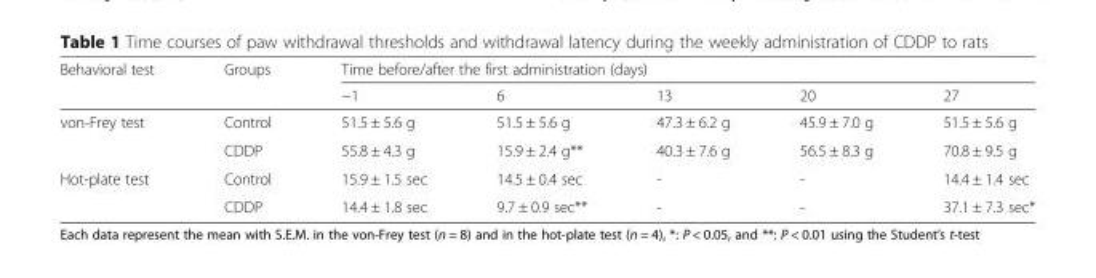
<table><thead><tr><td rowspan="2">Behavioral test</td><td rowspan="2">Groups</td><td colspan="5">Time before/after the first administration (days)</td></tr><tr><td>−1</td><td>6</td><td>13</td><td>20</td><td>27</td></tr></thead><tbody><tr><td rowspan="2">von-Frey test</td><td>Control</td><td>51.5 ± 5.6 g</td><td>51.5 ± 5.6 g</td><td>47.3 ± 6.2 g</td><td>45.9 ± 7.0 g</td><td>51.5 ± 5.6 g</td></tr><tr><td>CDDP</td><td>55.8 ± 4.3 g</td><td>15.9 ± 2.4 g**</td><td>40.3 ± 7.6 g</td><td>56.5 ± 8.3 g</td><td>70.8 ± 9.5 g</td></tr><tr><td rowspan="2">Hot-plate test</td><td>Control</td><td>15.9 ± 1.5 sec</td><td>14.5 ± 0.4 sec</td><td>-</td><td>-</td><td>14.4 ± 1.4 sec</td></tr><tr><td>CDDP</td><td>14.4 ± 1.8 sec</td><td>9.7 ± 0.9 sec**</td><td>-</td><td>-</td><td>37.1 ± 7.3 sec*</td></tr></tbody></table>